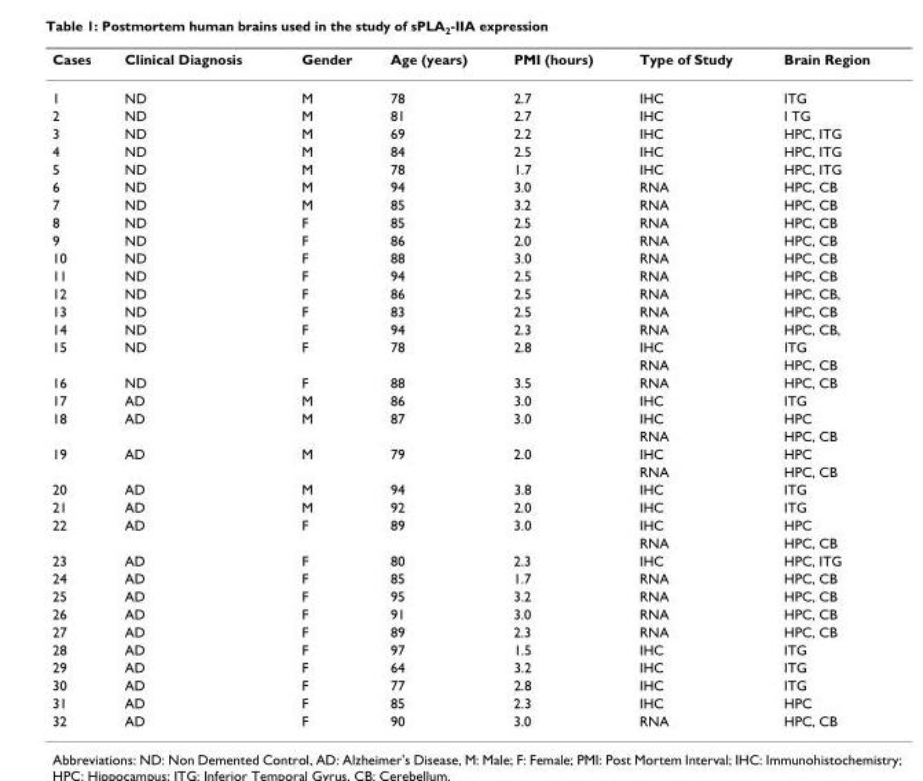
<table><thead><tr><td>Cases</td><td>Clinical Diagnosis</td><td>Gender</td><td>Age (years)</td><td>PMI (hours)</td><td>Type of Study</td><td>Brain Region</td></tr></thead><tbody><tr><td>1</td><td>ND</td><td>M</td><td>78</td><td>2.7</td><td>IHC</td><td>ITG</td></tr><tr><td>2</td><td>ND</td><td>M</td><td>81</td><td>2.7</td><td>IHC</td><td>I TG</td></tr><tr><td>3</td><td>ND</td><td>M</td><td>69</td><td>2.2</td><td>IHC</td><td>HPC, ITG</td></tr><tr><td>4</td><td>ND</td><td>M</td><td>84</td><td>2.5</td><td>IHC</td><td>HPC, ITG</td></tr><tr><td>5</td><td>ND</td><td>M</td><td>78</td><td>1.7</td><td>IHC</td><td>HPC, ITG</td></tr><tr><td>6</td><td>ND</td><td>M</td><td>94</td><td>3.0</td><td>RNA</td><td>HPC, CB</td></tr><tr><td>7</td><td>ND</td><td>M</td><td>85</td><td>3.2</td><td>RNA</td><td>HPC, CB</td></tr><tr><td>8</td><td>ND</td><td>F</td><td>85</td><td>2.5</td><td>RNA</td><td>HPC, CB</td></tr><tr><td>9</td><td>ND</td><td>F</td><td>86</td><td>2.0</td><td>RNA</td><td>HPC, CB</td></tr><tr><td>10</td><td>ND</td><td>F</td><td>88</td><td>3.0</td><td>RNA</td><td>HPC, CB</td></tr><tr><td>11</td><td>ND</td><td>F</td><td>94</td><td>2.5</td><td>RNA</td><td>HPC, CB</td></tr><tr><td>12</td><td>ND</td><td>F</td><td>86</td><td>2.5</td><td>RNA</td><td>HPC, CB,</td></tr><tr><td>13</td><td>ND</td><td>F</td><td>83</td><td>2.5</td><td>RNA</td><td>HPC, CB</td></tr><tr><td>14</td><td>ND</td><td>F</td><td>94</td><td>2.3</td><td>RNA</td><td>HPC, CB,</td></tr><tr><td rowspan="2">15</td><td>ND</td><td>F</td><td>78</td><td>2.8</td><td>IHC</td><td>ITG</td></tr><tr><td></td><td></td><td></td><td></td><td>RNA</td><td>HPC, CB</td></tr><tr><td>16</td><td>ND</td><td>F</td><td>88</td><td>3.5</td><td>RNA</td><td>HPC, CB</td></tr><tr><td>17</td><td>AD</td><td>M</td><td>86</td><td>3.0</td><td>IHC</td><td>ITG</td></tr><tr><td rowspan="2">18</td><td>AD</td><td>M</td><td>87</td><td>3.0</td><td>IHC</td><td>HPC</td></tr><tr><td></td><td></td><td></td><td></td><td>RNA</td><td>HPC, CB</td></tr><tr><td rowspan="2">19</td><td>AD</td><td>M</td><td>79</td><td>2.0</td><td>IHC</td><td>HPC</td></tr><tr><td></td><td></td><td></td><td></td><td>RNA</td><td>HPC, CB</td></tr><tr><td>20</td><td>AD</td><td>M</td><td>94</td><td>3.8</td><td>IHC</td><td>ITG</td></tr><tr><td>21</td><td>AD</td><td>M</td><td>92</td><td>2.0</td><td>IHC</td><td>ITG</td></tr><tr><td rowspan="2">22</td><td>AD</td><td>F</td><td>89</td><td>3.0</td><td>IHC</td><td>HPC</td></tr><tr><td></td><td></td><td></td><td></td><td>RNA</td><td>HPC, CB</td></tr><tr><td>23</td><td>AD</td><td>F</td><td>80</td><td>2.3</td><td>IHC</td><td>HPC, ITG</td></tr><tr><td>24</td><td>AD</td><td>F</td><td>85</td><td>1.7</td><td>RNA</td><td>HPC, CB</td></tr><tr><td>25</td><td>AD</td><td>F</td><td>95</td><td>3.2</td><td>RNA</td><td>HPC, CB</td></tr><tr><td>26</td><td>AD</td><td>F</td><td>91</td><td>3.0</td><td>RNA</td><td>HPC, CB</td></tr><tr><td>27</td><td>AD</td><td>F</td><td>89</td><td>2.3</td><td>RNA</td><td>HPC, CB</td></tr><tr><td>28</td><td>AD</td><td>F</td><td>97</td><td>1.5</td><td>IHC</td><td>ITG</td></tr><tr><td>29</td><td>AD</td><td>F</td><td>64</td><td>3.2</td><td>IHC</td><td>ITG</td></tr><tr><td>30</td><td>AD</td><td>F</td><td>77</td><td>2.8</td><td>IHC</td><td>ITG</td></tr><tr><td>31</td><td>AD</td><td>F</td><td>85</td><td>2.3</td><td>IHC</td><td>HPC</td></tr><tr><td>32</td><td>AD</td><td>F</td><td>90</td><td>3.0</td><td>RNA</td><td>HPC, CB</td></tr></tbody></table>